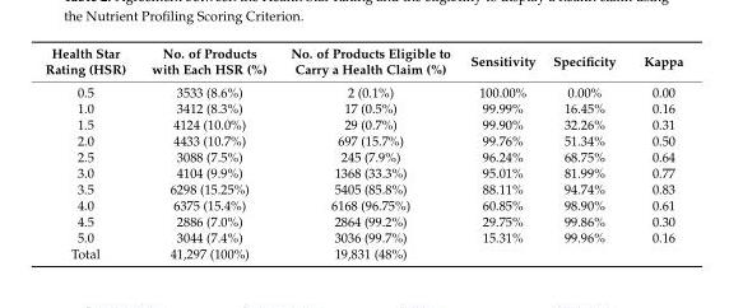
<table><thead><tr><td>Health Star Rating (HSR)</td><td>No. of Products with Each HSR (%)</td><td>No. of Products Eligible to Carry a Health Claim (%)</td><td>Sensitivity</td><td>Specificity</td><td>Kappa</td></tr></thead><tbody><tr><td>0.5</td><td>3533 (8.6%)</td><td>2 (0.1%)</td><td>100.00%</td><td>0.00%</td><td>0.00</td></tr><tr><td>1.0</td><td>3412 (8.3%)</td><td>17 (0.5%)</td><td>99.99%</td><td>16.45%</td><td>0.16</td></tr><tr><td>1.5</td><td>4124 (10.0%)</td><td>29 (0.7%)</td><td>99.90%</td><td>32.26%</td><td>0.31</td></tr><tr><td>2.0</td><td>4433 (10.7%)</td><td>697 (15.7%)</td><td>99.76%</td><td>51.34%</td><td>0.50</td></tr><tr><td>2.5</td><td>3088 (7.5%)</td><td>245 (7.9%)</td><td>96.24%</td><td>68.75%</td><td>0.64</td></tr><tr><td>3.0</td><td>4104 (9.9%)</td><td>1368 (33.3%)</td><td>95.01%</td><td>81.99%</td><td>0.77</td></tr><tr><td>3.5</td><td>6298 (15.25%)</td><td>5405 (85.8%)</td><td>88.11%</td><td>94.74%</td><td>0.83</td></tr><tr><td>4.0</td><td>6375 (15.4%)</td><td>6168 (96.75%)</td><td>60.85%</td><td>98.90%</td><td>0.61</td></tr><tr><td>4.5</td><td>2886 (7.0%)</td><td>2864 (99.2%)</td><td>29.75%</td><td>99.86%</td><td>0.30</td></tr><tr><td>5.0</td><td>3044 (7.4%)</td><td>3036 (99.7%)</td><td>15.31%</td><td>99.96%</td><td>0.16</td></tr><tr><td>Total</td><td>41,297 (100%)</td><td>19,831 (48%)</td><td></td><td></td><td></td></tr></tbody></table>